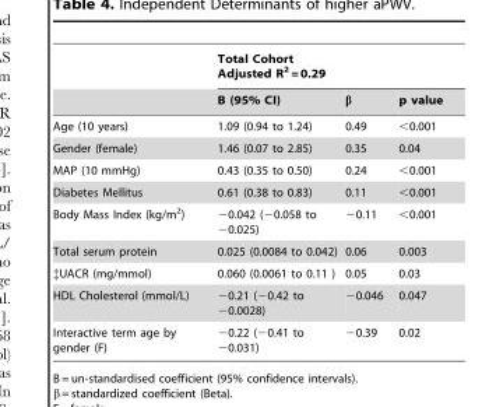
<table><thead><tr><td rowspan="2"></td><td colspan="3">Total Cohort Adjusted R<sup>2</sup> = 0.29</td></tr><tr><td>B (95% CI)</td><td>β</td><td>p value</td></tr></thead><tbody><tr><td>Age (10 years)</td><td>1.09 (0.94 to 1.24)</td><td>0.49</td><td>&lt;0.001</td></tr><tr><td>Gender (female)</td><td>1.46 (0.07 to 2.85)</td><td>0.35</td><td>0.04</td></tr><tr><td>MAP (10 mmHg)</td><td>0.43 (0.35 to 0.50)</td><td>0.24</td><td>&lt;0.001</td></tr><tr><td>Diabetes Mellitus</td><td>0.61 (0.38 to 0.83)</td><td>0.11</td><td>&lt;0.001</td></tr><tr><td>Body Mass Index (kg/m<sup>2</sup>)</td><td>−0.042 (−0.058 to −0.025)</td><td>−0.11</td><td>&lt;0.001</td></tr><tr><td>Total serum protein</td><td>0.025 (0.0084 to 0.042)</td><td>0.06</td><td>0.003</td></tr><tr><td>‡UACR (mg/mmol)</td><td>0.060 (0.0061 to 0.11 )</td><td>0.05</td><td>0.03</td></tr><tr><td>HDL Cholesterol (mmol/L)</td><td>−0.21 (−0.42 to −0.0028)</td><td>−0.046</td><td>0.047</td></tr><tr><td>Interactive term age by gender (F)</td><td>−0.22 (−0.41 to −0.031)</td><td>−0.39</td><td>0.02</td></tr></tbody></table>